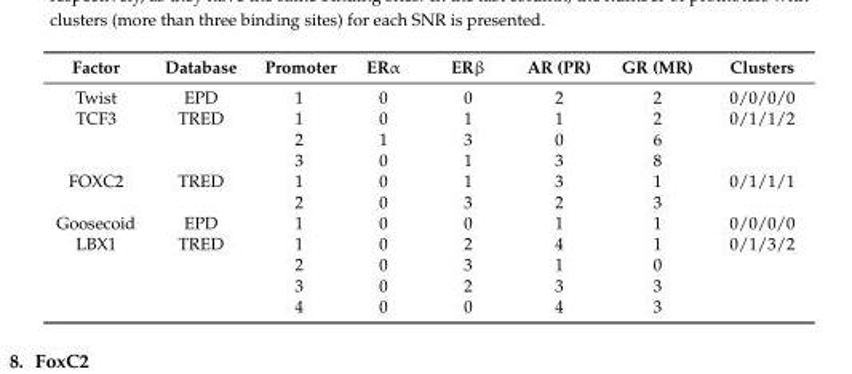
<table><thead><tr><td>Factor</td><td>Database</td><td>Promoter</td><td>ERα</td><td>ERβ</td><td>AR (PR)</td><td>GR (MR)</td><td>Clusters</td></tr></thead><tbody><tr><td>Twist</td><td>EPD</td><td>1</td><td>0</td><td>0</td><td>2</td><td>2</td><td>0/0/0/0</td></tr><tr><td rowspan="3">TCF3</td><td>TRED</td><td>1</td><td>0</td><td>1</td><td>1</td><td>2</td><td>0/1/1/2</td></tr><tr><td></td><td>2</td><td>1</td><td>3</td><td>0</td><td>6</td><td></td></tr><tr><td></td><td>3</td><td>0</td><td>1</td><td>3</td><td>8</td><td></td></tr><tr><td rowspan="2">FOXC2</td><td>TRED</td><td>1</td><td>0</td><td>1</td><td>3</td><td>1</td><td>0/1/1/1</td></tr><tr><td></td><td>2</td><td>0</td><td>3</td><td>2</td><td>3</td><td></td></tr><tr><td>Goosecoid</td><td>EPD</td><td>1</td><td>0</td><td>0</td><td>1</td><td>1</td><td>0/0/0/0</td></tr><tr><td rowspan="4">LBX1</td><td>TRED</td><td>1</td><td>0</td><td>2</td><td>4</td><td>1</td><td>0/1/3/2</td></tr><tr><td></td><td>2</td><td>0</td><td>3</td><td>1</td><td>0</td><td></td></tr><tr><td></td><td>3</td><td>0</td><td>2</td><td>3</td><td>3</td><td></td></tr><tr><td></td><td>4</td><td>0</td><td>0</td><td>4</td><td>3</td><td></td></tr></tbody></table>